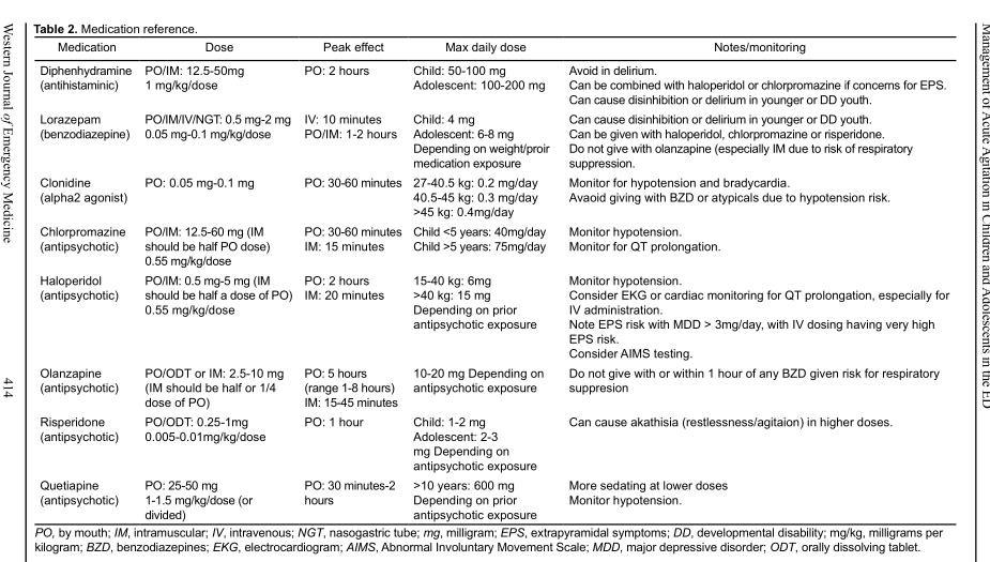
<table><thead><tr><td>Medication</td><td>Dose</td><td>Peak effect</td><td>Max daily dose</td><td>Notes/monitoring</td></tr></thead><tbody><tr><td>Diphenhydramine (antihistaminic)</td><td>PO/IM: 12.5-50mg 1 mg/kg/dose</td><td>PO: 2 hours</td><td>Child: 50-100 mg Adolescent: 100-200 mg</td><td>Avoid in delirium. Can be combined with haloperidol or chlorpromazine if concerns for EPS. Can cause disinhibition or delirium in younger or DD youth.</td></tr><tr><td>Lorazepam (benzodiazepine)</td><td>PO/IM/IV/NGT: 0.5 mg-2 mg 0.05 mg-0.1 mg/kg/dose</td><td>IV: 10 minutes PO/IM: 1-2 hours</td><td>Child: 4 mg Adolescent: 6-8 mg Depending on weight/proir medication exposure</td><td>Can cause disinhibition or delirium in younger or DD youth. Can be given with haloperidol, chlorpromazine or risperidone. Do not give with olanzapine (especially IM due to risk of respiratory suppression.</td></tr><tr><td>Clonidine (alpha2 agonist)</td><td>PO: 0.05 mg-0.1 mg</td><td>PO: 30-60 minutes</td><td>27-40.5 kg: 0.2 mg/day 40.5-45 kg: 0.3 mg/day &gt;45 kg: 0.4mg/day</td><td>Monitor for hypotension and bradycardia. Avaoid giving with BZD or atypicals due to hypotension risk.</td></tr><tr><td>Chlorpromazine (antipsychotic)</td><td>PO/IM: 12.5-60 mg (IM should be half PO dose) 0.55 mg/kg/dose</td><td>PO: 30-60 minutes IM: 15 minutes</td><td>Child &lt;5 years: 40mg/day Child &gt;5 years: 75mg/day</td><td>Monitor hypotension. Monitor for QT prolongation.</td></tr><tr><td>Haloperidol (antipsychotic)</td><td>PO/IM: 0.5 mg-5 mg (IM should be half a dose of PO) 0.55 mg/kg/dose</td><td>PO: 2 hours IM: 20 minutes</td><td>15-40 kg: 6mg &gt;40 kg: 15 mg Depending on prior antipsychotic exposure</td><td>Monitor hypotension. Consider EKG or cardiac monitoring for QT prolongation, especially for IV administration. Note EPS risk with MDD &gt; 3mg/day, with IV dosing having very high EPS risk. Consider AIMS testing.</td></tr><tr><td>Olanzapine (antipsychotic)</td><td>PO/ODT or IM: 2.5-10 mg (IM should be half or 1/4 dose of PO)</td><td>PO: 5 hours (range 1-8 hours) IM: 15-45 minutes</td><td>10-20 mg Depending on antipsychotic exposure</td><td>Do not give with or within 1 hour of any BZD given risk for respiratory suppresion</td></tr><tr><td>Risperidone (antipsychotic)</td><td>PO/ODT: 0.25-1mg 0.005-0.01mg/kg/dose</td><td>PO: 1 hour</td><td>Child: 1-2 mg Adolescent: 2-3 mg Depending on antipsychotic exposure</td><td>Can cause akathisia (restlessness/agitaion) in higher doses.</td></tr><tr><td>Quetiapine (antipsychotic)</td><td>PO: 25-50 mg 1-1.5 mg/kg/dose (or divided)</td><td>PO: 30 minutes-2 hours</td><td>&gt;10 years: 600 mg Depending on prior antipsychotic exposure</td><td>More sedating at lower doses Monitor hypotension.</td></tr></tbody></table>